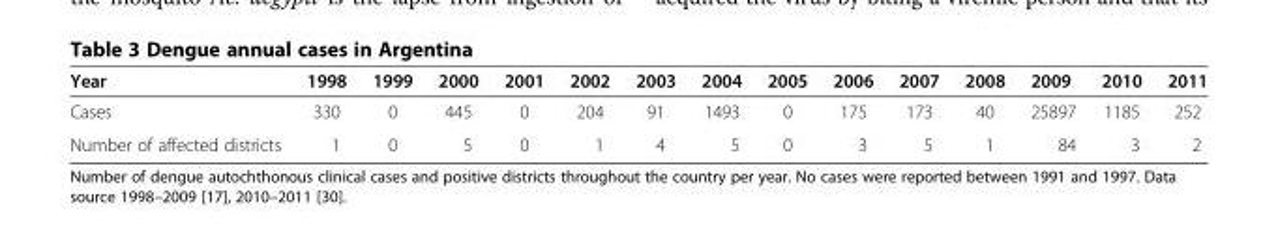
<table><thead><tr><td>Year</td><td>1998</td><td>1999</td><td>2000</td><td>2001</td><td>2002</td><td>2003</td><td>2004</td><td>2005</td><td>2006</td><td>2007</td><td>2008</td><td>2009</td><td>2010</td><td>2011</td></tr></thead><tbody><tr><td>Cases</td><td>330</td><td>0</td><td>445</td><td>0</td><td>204</td><td>91</td><td>1493</td><td>0</td><td>175</td><td>173</td><td>40</td><td>25897</td><td>1185</td><td>252</td></tr><tr><td>Number of affected districts</td><td>1</td><td>0</td><td>5</td><td>0</td><td>1</td><td>4</td><td>5</td><td>0</td><td>3</td><td>5</td><td>1</td><td>84</td><td>3</td><td>2</td></tr></tbody></table>